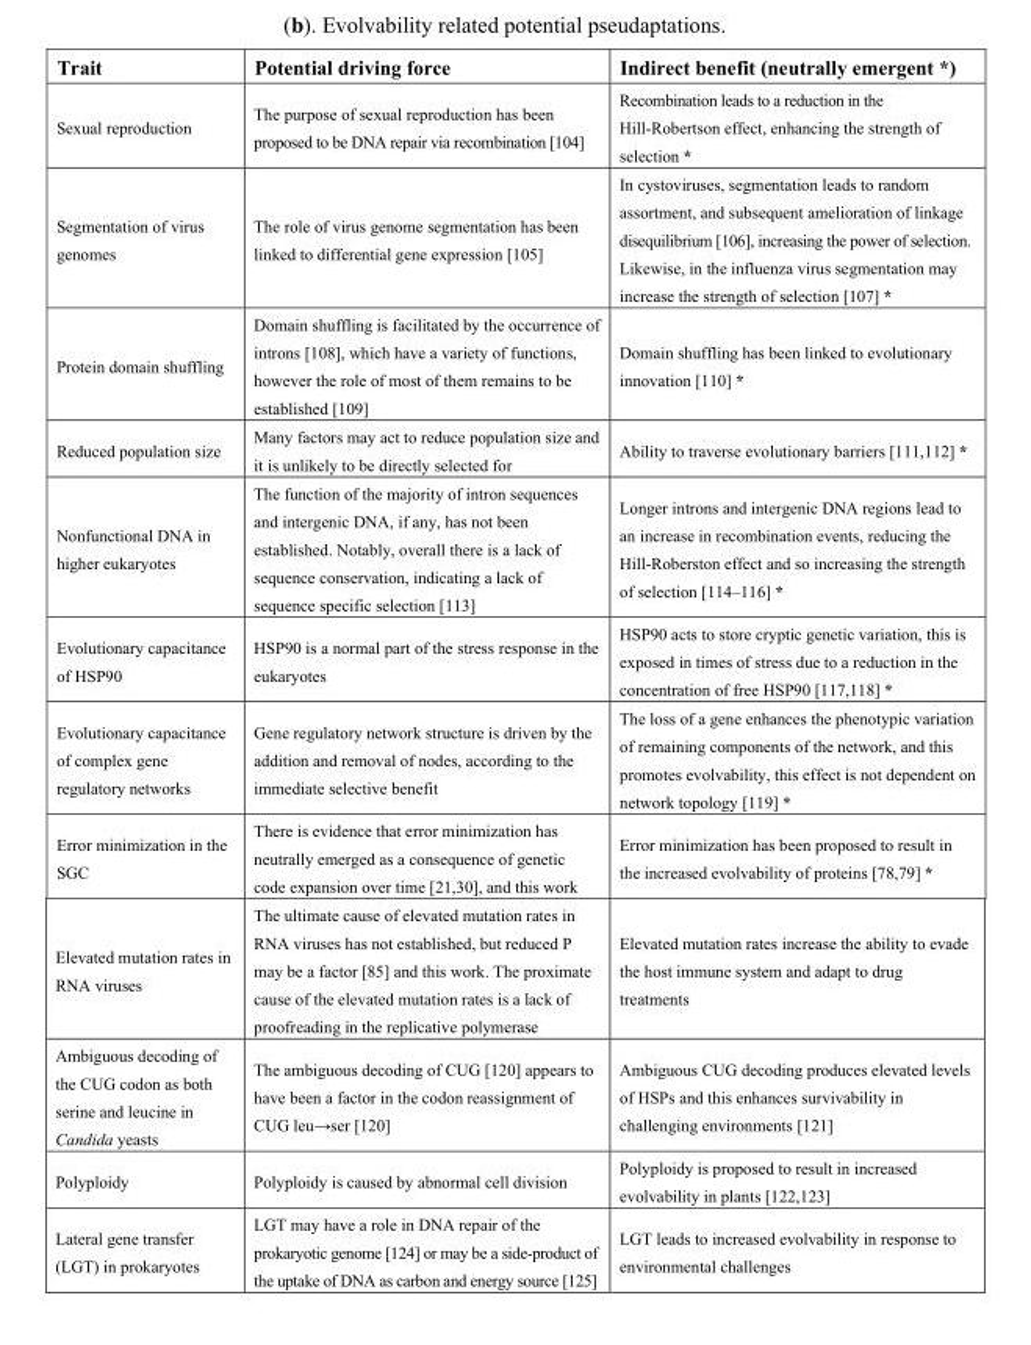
<table><thead><tr><td>Trait</td><td>Potential driving force</td><td>Indirect benefit (neutrally emergent *)</td></tr></thead><tbody><tr><td>Sexual reproduction</td><td>The purpose of sexual reproduction has been proposed to be DNA repair via recombination [104]</td><td>Recombination leads to a reduction in the Hill-Robertson effect, enhancing the strength of selection *</td></tr><tr><td>Segmentation of virus genomes</td><td>The role of virus genome segmentation has been linked to differential gene expression [105]</td><td>In cystoviruses, segmentation leads to random assortment, and subsequent amelioration of linkage disequilibrium [106], increasing the power of selection. Likewise, in the influenza virus segmentation may increase the strength of selection [107] *</td></tr><tr><td>Protein domain shuffling</td><td>Domain shuffling is facilitated by the occurrence of introns [108], which have a variety of functions, however the role of most of them remains to be established [109]</td><td>Domain shuffling has been linked to evolutionary innovation [110] *</td></tr><tr><td>Reduced population size</td><td>Many factors may act to reduce population size and it is unlikely to be directly selected for</td><td>Ability to traverse evolutionary barriers [111,112] *</td></tr><tr><td>Nonfunctional DNA in higher eukaryotes</td><td>The function of the majority of intron sequences and intergenic DNA, if any, has not been established. Notably, overall there is a lack of sequence conservation, indicating a lack of sequence specific selection [113]</td><td>Longer introns and intergenic DNA regions lead to an increase in recombination events, reducing the Hill-Roberston effect and so increasing the strength of selection [114–116] *</td></tr><tr><td>Evolutionary capacitance of HSP90</td><td>HSP90 is a normal part of the stress response in the eukaryotes</td><td>HSP90 acts to store cryptic genetic variation, this is exposed in times of stress due to a reduction in the concentration of free HSP90 [117,118] *</td></tr><tr><td>Evolutionary capacitance of complex gene regulatory networks</td><td>Gene regulatory network structure is driven by the addition and removal of nodes, according to the immediate selective benefit</td><td>The loss of a gene enhances the phenotypic variation of remaining components of the network, and this promotes evolvability, this effect is not dependent on network topology [119] *</td></tr><tr><td>Error minimization in the SGC</td><td>There is evidence that error minimization has neutrally emerged as a consequence of genetic code expansion over time [21,30], and this work</td><td>Error minimization has been proposed to result in the increased evolvability of proteins [78,79] *</td></tr><tr><td>Elevated mutation rates in RNA viruses</td><td>The ultimate cause of elevated mutation rates in RNA viruses has not established, but reduced P may be a factor [85] and this work. The proximate cause of the elevated mutation rates is a lack of proofreading in the replicative polymerase</td><td>Elevated mutation rates increase the ability to evade the host immune system and adapt to drug treatments</td></tr><tr><td>Ambiguous decoding of the CUG codon as both serine and leucine in Candida yeasts</td><td>The ambiguous decoding of CUG [120] appears to have been a factor in the codon reassignment of CUG leu→ser [120]</td><td>Ambiguous CUG decoding produces elevated levels of HSPs and this enhances survivability in challenging environments [121]</td></tr><tr><td>Polyploidy</td><td>Polyploidy is caused by abnormal cell division</td><td>Polyploidy is proposed to result in increased evolvability in plants [122,123]</td></tr><tr><td>Lateral gene transfer (LGT) in prokaryotes</td><td>LGT may have a role in DNA repair of the prokaryotic genome [124] or may be a side-product of the uptake of DNA as carbon and energy source [125]</td><td>LGT leads to increased evolvability in response to environmental challenges</td></tr></tbody></table>